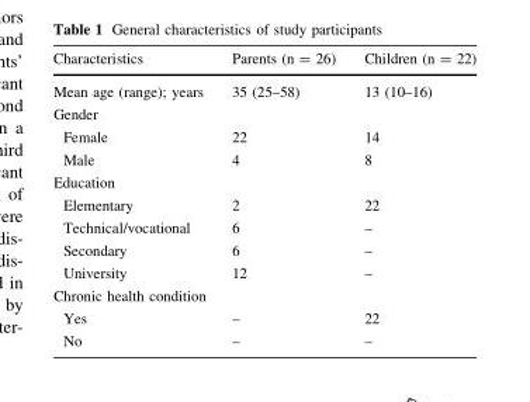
<table><thead><tr><td>Characteristics</td><td>Parents (n = 26)</td><td>Children (n = 22)</td></tr></thead><tbody><tr><td>Mean age (range); years</td><td>35 (25–58)</td><td>13 (10–16)</td></tr><tr><td colspan="3">Gender</td></tr><tr><td>Female</td><td>22</td><td>14</td></tr><tr><td>Male</td><td>4</td><td>8</td></tr><tr><td colspan="3">Education</td></tr><tr><td>Elementary</td><td>2</td><td>22</td></tr><tr><td>Technical/vocational</td><td>6</td><td>–</td></tr><tr><td>Secondary</td><td>6</td><td>–</td></tr><tr><td>University</td><td>12</td><td>–</td></tr><tr><td colspan="3">Chronic health condition</td></tr><tr><td>Yes</td><td>–</td><td>22</td></tr><tr><td>No</td><td>–</td><td>–</td></tr></tbody></table>